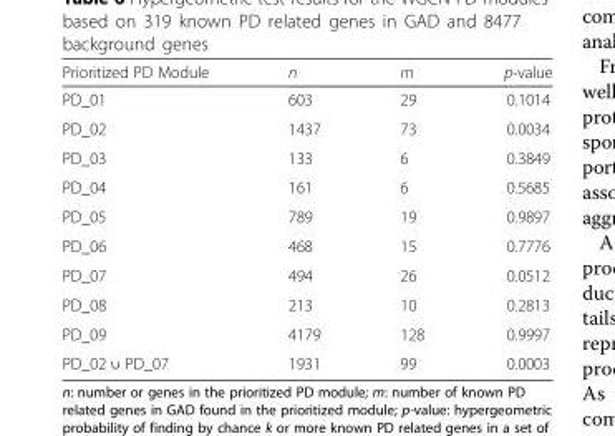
<table><thead><tr><td>Prioritized PD Module</td><td>n</td><td>m</td><td>p-value</td></tr></thead><tbody><tr><td>PD_01</td><td>603</td><td>29</td><td>0.1014</td></tr><tr><td>PD_02</td><td>1437</td><td>73</td><td>0.0034</td></tr><tr><td>PD_03</td><td>133</td><td>6</td><td>0.3849</td></tr><tr><td>PD_04</td><td>161</td><td>6</td><td>0.5685</td></tr><tr><td>PD_05</td><td>789</td><td>19</td><td>0.9897</td></tr><tr><td>PD_06</td><td>468</td><td>15</td><td>0.7776</td></tr><tr><td>PD_07</td><td>494</td><td>26</td><td>0.0512</td></tr><tr><td>PD_08</td><td>213</td><td>10</td><td>0.2813</td></tr><tr><td>PD_09</td><td>4179</td><td>128</td><td>0.9997</td></tr><tr><td>PD_02 ∪ PD_07</td><td>1931</td><td>99</td><td>0.0003</td></tr></tbody></table>